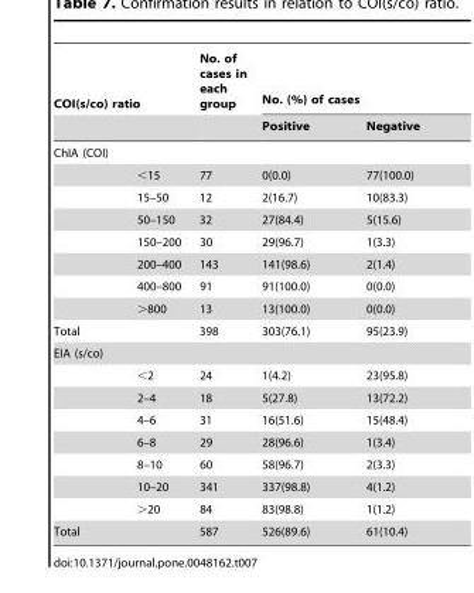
<table><thead><tr><td colspan="2">COI(s/co) ratio</td><td rowspan="2">No. of cases in each group</td><td colspan="2">No. (%) of cases</td></tr><tr><td></td><td></td><td>Positive</td><td>Negative</td></tr></thead><tbody><tr><td colspan="5">ChIA (COI)</td></tr><tr><td></td><td>&lt;15</td><td>77</td><td>0(0.0)</td><td>77(100.0)</td></tr><tr><td></td><td>15–50</td><td>12</td><td>2(16.7)</td><td>10(83.3)</td></tr><tr><td></td><td>50–150</td><td>32</td><td>27(84.4)</td><td>5(15.6)</td></tr><tr><td></td><td>150–200</td><td>30</td><td>29(96.7)</td><td>1(3.3)</td></tr><tr><td></td><td>200–400</td><td>143</td><td>141(98.6)</td><td>2(1.4)</td></tr><tr><td></td><td>400–800</td><td>91</td><td>91(100.0)</td><td>0(0.0)</td></tr><tr><td></td><td>&gt;800</td><td>13</td><td>13(100.0)</td><td>0(0.0)</td></tr><tr><td>Total</td><td></td><td>398</td><td>303(76.1)</td><td>95(23.9)</td></tr><tr><td colspan="5">EIA (s/co)</td></tr><tr><td></td><td>&lt;2</td><td>24</td><td>1(4.2)</td><td>23(95.8)</td></tr><tr><td></td><td>2–4</td><td>18</td><td>5(27.8)</td><td>13(72.2)</td></tr><tr><td></td><td>4–6</td><td>31</td><td>16(51.6)</td><td>15(48.4)</td></tr><tr><td></td><td>6–8</td><td>29</td><td>28(96.6)</td><td>1(3.4)</td></tr><tr><td></td><td>8–10</td><td>60</td><td>58(96.7)</td><td>2(3.3)</td></tr><tr><td></td><td>10–20</td><td>341</td><td>337(98.8)</td><td>4(1.2)</td></tr><tr><td></td><td>&gt;20</td><td>84</td><td>83(98.8)</td><td>1(1.2)</td></tr><tr><td>Total</td><td></td><td>587</td><td>526(89.6)</td><td>61(10.4)</td></tr></tbody></table>